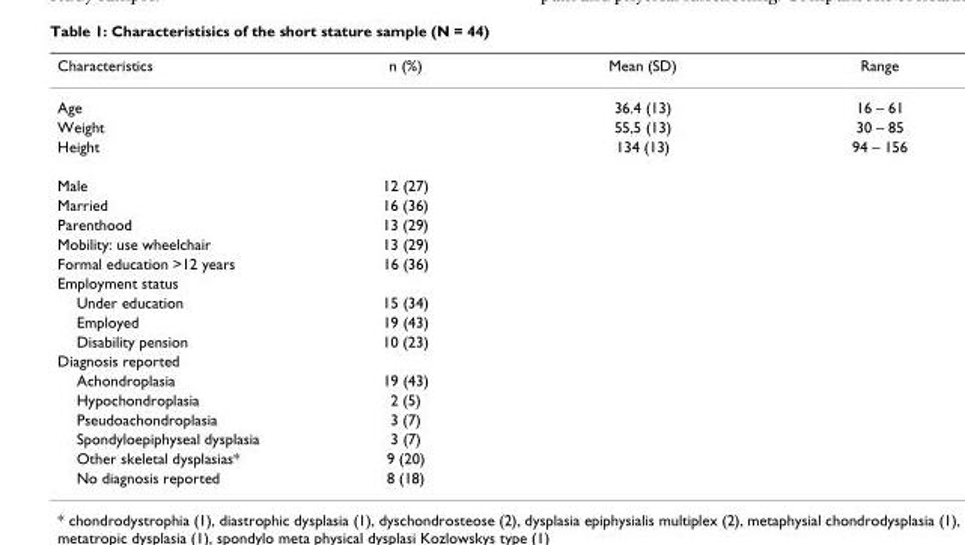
<table><thead><tr><td>Characteristics</td><td>n (%)</td><td>Mean (SD)</td><td>Range</td></tr></thead><tbody><tr><td>Age</td><td></td><td>36.4 (13)</td><td>16 – 61</td></tr><tr><td>Weight</td><td></td><td>55,5 (13)</td><td>30 – 85</td></tr><tr><td>Height</td><td></td><td>134 (13)</td><td>94 – 156</td></tr><tr><td>Male</td><td>12 (27)</td><td></td><td></td></tr><tr><td>Married</td><td>16 (36)</td><td></td><td></td></tr><tr><td>Parenthood</td><td>13 (29)</td><td></td><td></td></tr><tr><td>Mobility: use wheelchair</td><td>13 (29)</td><td></td><td></td></tr><tr><td>Formal education &gt;12 years</td><td>16 (36)</td><td></td><td></td></tr><tr><td colspan="4">Employment status</td></tr><tr><td>Under education</td><td>15 (34)</td><td></td><td></td></tr><tr><td>Employed</td><td>19 (43)</td><td></td><td></td></tr><tr><td>Disability pension</td><td>10 (23)</td><td></td><td></td></tr><tr><td colspan="4">Diagnosis reported</td></tr><tr><td>Achondroplasia</td><td>19 (43)</td><td></td><td></td></tr><tr><td>Hypochondroplasia</td><td>2 (5)</td><td></td><td></td></tr><tr><td>Pseudoachondroplasia</td><td>3 (7)</td><td></td><td></td></tr><tr><td>Spondyloepiphyseal dysplasia</td><td>3 (7)</td><td></td><td></td></tr><tr><td>Other skeletal dysplasias*</td><td>9 (20)</td><td></td><td></td></tr><tr><td>No diagnosis reported</td><td>8 (18)</td><td></td><td></td></tr></tbody></table>